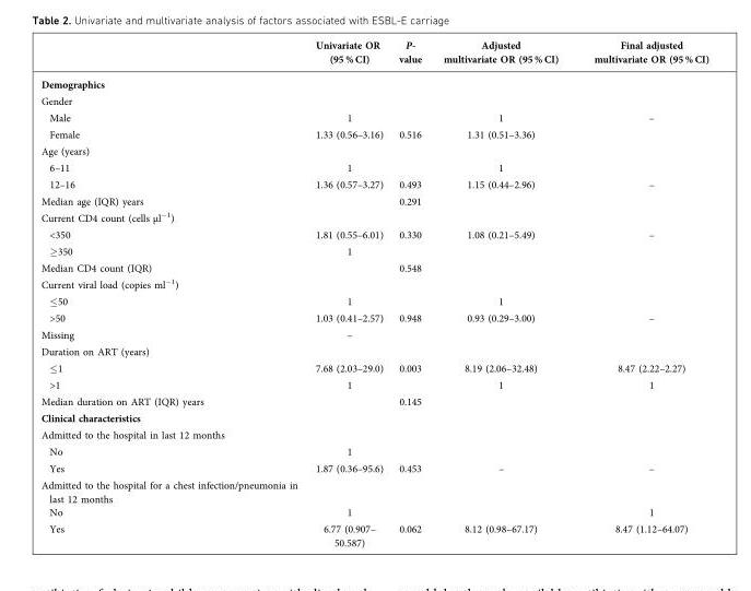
<table><thead><tr><td></td><td>Univariate OR (95 % CI)</td><td>P- value</td><td>Adjusted multivariate OR (95 % CI)</td><td>Final adjusted multivariate OR (95 % CI)</td></tr></thead><tbody><tr><td colspan="5">Demographics</td></tr><tr><td colspan="5">Gender</td></tr><tr><td>Male</td><td>1</td><td></td><td>1</td><td>–</td></tr><tr><td>Female</td><td>1.33 (0.56–3.16)</td><td>0.516</td><td>1.31 (0.51–3.36)</td><td></td></tr><tr><td colspan="5">Age (years)</td></tr><tr><td>6–11</td><td>1</td><td></td><td>1</td><td></td></tr><tr><td>12–16</td><td>1.36 (0.57–3.27)</td><td>0.493</td><td>1.15 (0.44–2.96)</td><td>–</td></tr><tr><td>Median age (IQR) years</td><td></td><td>0.291</td><td></td><td></td></tr><tr><td colspan="5">Current CD4 count (cells µl<sup>−1</sup>)</td></tr><tr><td>&lt;350</td><td>1.81 (0.55–6.01)</td><td>0.330</td><td>1.08 (0.21–5.49)</td><td>–</td></tr><tr><td>≥350</td><td>1</td><td></td><td></td><td></td></tr><tr><td>Median CD4 count (IQR)</td><td></td><td>0.548</td><td></td><td></td></tr><tr><td colspan="5">Current viral load (copies ml<sup>−1</sup>)</td></tr><tr><td>≤50</td><td>1</td><td></td><td>1</td><td></td></tr><tr><td>&gt;50</td><td>1.03 (0.41–2.57)</td><td>0.948</td><td>0.93 (0.29–3.00)</td><td>–</td></tr><tr><td>Missing</td><td>–</td><td></td><td></td><td></td></tr><tr><td colspan="5">Duration on ART (years)</td></tr><tr><td>≤1</td><td>7.68 (2.03–29.0)</td><td>0.003</td><td>8.19 (2.06–32.48)</td><td>8.47 (2.22–2.27)</td></tr><tr><td>&gt;1</td><td>1</td><td></td><td>1</td><td>1</td></tr><tr><td>Median duration on ART (IQR) years</td><td></td><td>0.145</td><td></td><td></td></tr><tr><td colspan="5">Clinical characteristics</td></tr><tr><td colspan="5">Admitted to the hospital in last 12 months</td></tr><tr><td>No</td><td>1</td><td></td><td></td><td></td></tr><tr><td>Yes</td><td>1.87 (0.36–95.6)</td><td>0.453</td><td>–</td><td>–</td></tr><tr><td colspan="5">Admitted to the hospital for a chest infection/pneumonia in last 12 months</td></tr><tr><td>No</td><td>1</td><td></td><td></td><td>1</td></tr><tr><td>Yes</td><td>6.77 (0.907– 50.587)</td><td>0.062</td><td>8.12 (0.98–67.17)</td><td>8.47 (1.12–64.07)</td></tr></tbody></table>